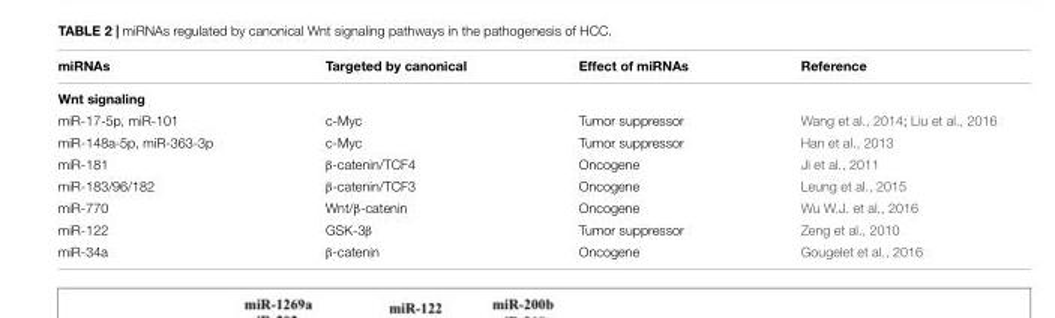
<table><thead><tr><td>miRNAs</td><td>Targeted by canonical</td><td>Effect of miRNAs</td><td>Reference</td></tr></thead><tbody><tr><td colspan="4">Wnt signaling</td></tr><tr><td>miR-17-5p, miR-101</td><td>c-Myc</td><td>Tumor suppressor</td><td>Wang et al., 2014; Liu et al., 2016</td></tr><tr><td>miR-148a-5p, miR-363-3p</td><td>c-Myc</td><td>Tumor suppressor</td><td>Han et al., 2013</td></tr><tr><td>miR-181</td><td>β-catenin/TCF4</td><td>Oncogene</td><td>Ji et al., 2011</td></tr><tr><td>miR-183/96/182</td><td>β-catenin/TCF3</td><td>Oncogene</td><td>Leung et al., 2015</td></tr><tr><td>miR-770</td><td>Wnt/β-catenin</td><td>Oncogene</td><td>Wu W.J. et al., 2016</td></tr><tr><td>miR-122</td><td>GSK-3β</td><td>Tumor suppressor</td><td>Zeng et al., 2010</td></tr><tr><td>miR-34a</td><td>β-catenin</td><td>Oncogene</td><td>Gougelet et al., 2016</td></tr></tbody></table>